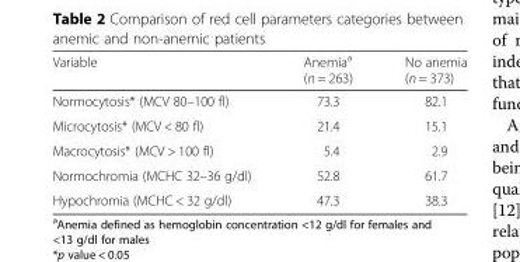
<table><thead><tr><td>Variable</td><td>Anemia<sup>a</sup> (n = 263)</td><td>No anemia (n = 373)</td></tr></thead><tbody><tr><td>Normocytosis* (MCV 80–100 fl)</td><td>73.3</td><td>82.1</td></tr><tr><td>Microcytosis* (MCV &lt; 80 fl)</td><td>21.4</td><td>15.1</td></tr><tr><td>Macrocytosis* (MCV &gt; 100 fl)</td><td>5.4</td><td>2.9</td></tr><tr><td>Normochromia (MCHC 32–36 g/dl)</td><td>52.8</td><td>61.7</td></tr><tr><td>Hypochromia (MCHC &lt; 32 g/dl)</td><td>47.3</td><td>38.3</td></tr></tbody></table>